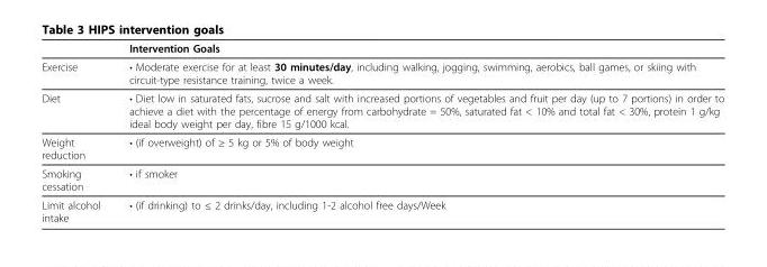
<table><thead><tr><td></td><td>Intervention Goals</td></tr></thead><tbody><tr><td>Exercise</td><td>• Moderate exercise for at least 30 minutes/day, including walking, jogging, swimming, aerobics, ball games, or skiing with circuit-type resistance training, twice a week.</td></tr><tr><td>Diet</td><td>• Diet low in saturated fats, sucrose and salt with increased portions of vegetables and fruit per day (up to 7 portions) in order to achieve a diet with the percentage of energy from carbohydrate = 50%, saturated fat &lt; 10% and total fat &lt; 30%, protein 1 g/kg ideal body weight per day, fibre 15 g/1000 kcal.</td></tr><tr><td>Weight reduction</td><td>• (if overweight) of ≥ 5 kg or 5% of body weight</td></tr><tr><td>Smoking cessation</td><td>• if smoker</td></tr><tr><td>Limit alcohol intake</td><td>• (if drinking) to ≤ 2 drinks/day, including 1-2 alcohol free days/Week</td></tr></tbody></table>